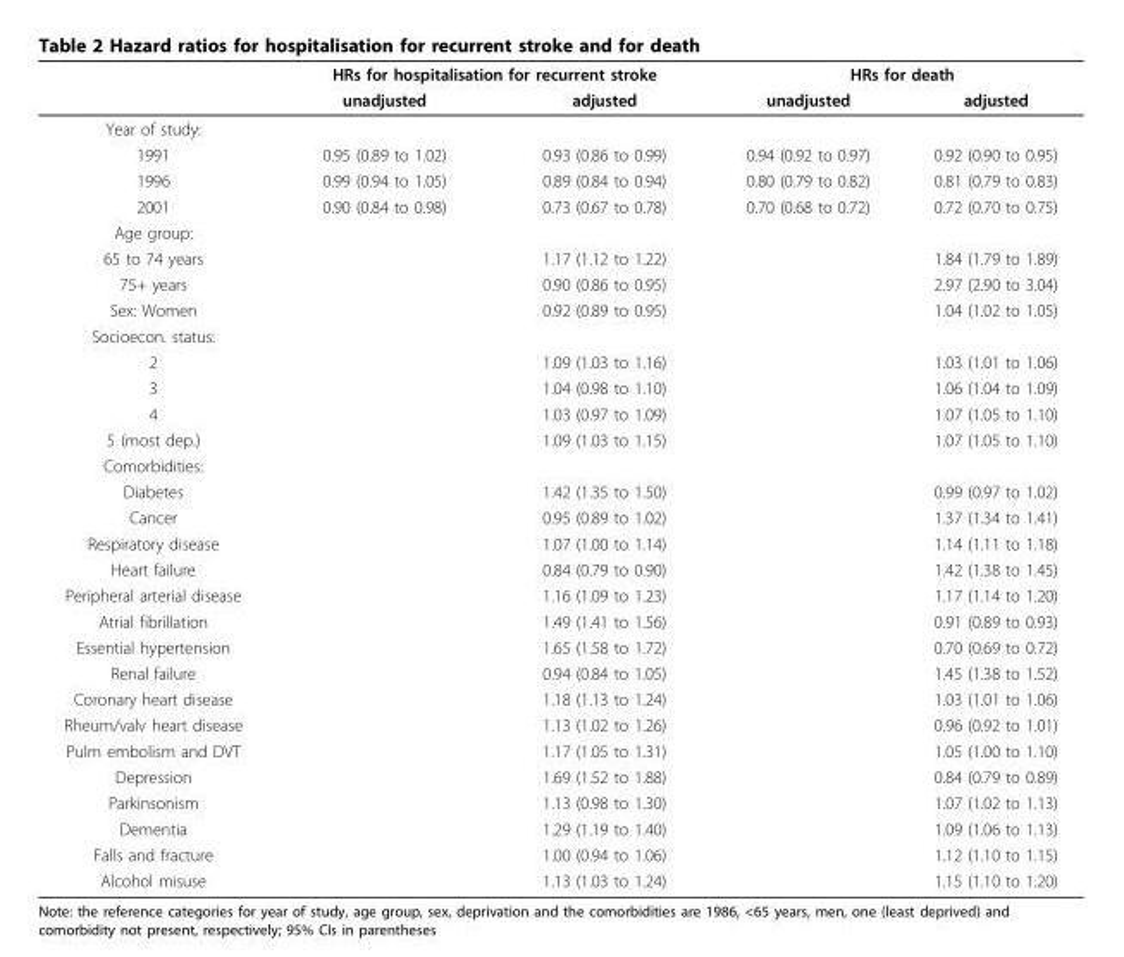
<table><thead><tr><td rowspan="2"></td><td colspan="2">HRs for hospitalisation for recurrent stroke</td><td colspan="2">HRs for death</td></tr><tr><td>unadjusted</td><td>adjusted</td><td>unadjusted</td><td>adjusted</td></tr></thead><tbody><tr><td colspan="5">Year of study:</td></tr><tr><td>1991</td><td>0.95 (0.89 to 1.02)</td><td>0.93 (0.86 to 0.99)</td><td>0.94 (0.92 to 0.97)</td><td>0.92 (0.90 to 0.95)</td></tr><tr><td>1996</td><td>0.99 (0.94 to 1.05)</td><td>0.89 (0.84 to 0.94)</td><td>0.80 (0.79 to 0.82)</td><td>0.81 (0.79 to 0.83)</td></tr><tr><td>2001</td><td>0.90 (0.84 to 0.98)</td><td>0.73 (0.67 to 0.78)</td><td>0.70 (0.68 to 0.72)</td><td>0.72 (0.70 to 0.75)</td></tr><tr><td colspan="5">Age group:</td></tr><tr><td>65 to 74 years</td><td></td><td>1.17 (1.12 to 1.22)</td><td></td><td>1.84 (1.79 to 1.89)</td></tr><tr><td>75+ years</td><td></td><td>0.90 (0.86 to 0.95)</td><td></td><td>2.97 (2.90 to 3.04)</td></tr><tr><td>Sex: Women</td><td></td><td>0.92 (0.89 to 0.95)</td><td></td><td>1.04 (1.02 to 1.05)</td></tr><tr><td colspan="5">Socioecon. status:</td></tr><tr><td>2</td><td></td><td>1.09 (1.03 to 1.16)</td><td></td><td>1.03 (1.01 to 1.06)</td></tr><tr><td>3</td><td></td><td>1.04 (0.98 to 1.10)</td><td></td><td>1.06 (1.04 to 1.09)</td></tr><tr><td>4</td><td></td><td>1.03 (0.97 to 1.09)</td><td></td><td>1.07 (1.05 to 1.10)</td></tr><tr><td>5 (most dep.)</td><td></td><td>1.09 (1.03 to 1.15)</td><td></td><td>1.07 (1.05 to 1.10)</td></tr><tr><td colspan="5">Comorbidities:</td></tr><tr><td>Diabetes</td><td></td><td>1.42 (1.35 to 1.50)</td><td></td><td>0.99 (0.97 to 1.02)</td></tr><tr><td>Cancer</td><td></td><td>0.95 (0.89 to 1.02)</td><td></td><td>1.37 (1.34 to 1.41)</td></tr><tr><td>Respiratory disease</td><td></td><td>1.07 (1.00 to 1.14)</td><td></td><td>1.14 (1.11 to 1.18)</td></tr><tr><td>Heart failure</td><td></td><td>0.84 (0.79 to 0.90)</td><td></td><td>1.42 (1.38 to 1.45)</td></tr><tr><td>Peripheral arterial disease</td><td></td><td>1.16 (1.09 to 1.23)</td><td></td><td>1.17 (1.14 to 1.20)</td></tr><tr><td>Atrial fibrillation</td><td></td><td>1.49 (1.41 to 1.56)</td><td></td><td>0.91 (0.89 to 0.93)</td></tr><tr><td>Essential hypertension</td><td></td><td>1.65 (1.58 to 1.72)</td><td></td><td>0.70 (0.69 to 0.72)</td></tr><tr><td>Renal failure</td><td></td><td>0.94 (0.84 to 1.05)</td><td></td><td>1.45 (1.38 to 1.52)</td></tr><tr><td>Coronary heart disease</td><td></td><td>1.18 (1.13 to 1.24)</td><td></td><td>1.03 (1.01 to 1.06)</td></tr><tr><td>Rheum/valv heart disease</td><td></td><td>1.13 (1.02 to 1.26)</td><td></td><td>0.96 (0.92 to 1.01)</td></tr><tr><td>Pulm embolism and DVT</td><td></td><td>1.17 (1.05 to 1.31)</td><td></td><td>1.05 (1.00 to 1.10)</td></tr><tr><td>Depression</td><td></td><td>1.69 (1.52 to 1.88)</td><td></td><td>0.84 (0.79 to 0.89)</td></tr><tr><td>Parkinsonism</td><td></td><td>1.13 (0.98 to 1.30)</td><td></td><td>1.07 (1.02 to 1.13)</td></tr><tr><td>Dementia</td><td></td><td>1.29 (1.19 to 1.40)</td><td></td><td>1.09 (1.06 to 1.13)</td></tr><tr><td>Falls and fracture</td><td></td><td>1.00 (0.94 to 1.06)</td><td></td><td>1.12 (1.10 to 1.15)</td></tr><tr><td>Alcohol misuse</td><td></td><td>1.13 (1.03 to 1.24)</td><td></td><td>1.15 (1.10 to 1.20)</td></tr></tbody></table>